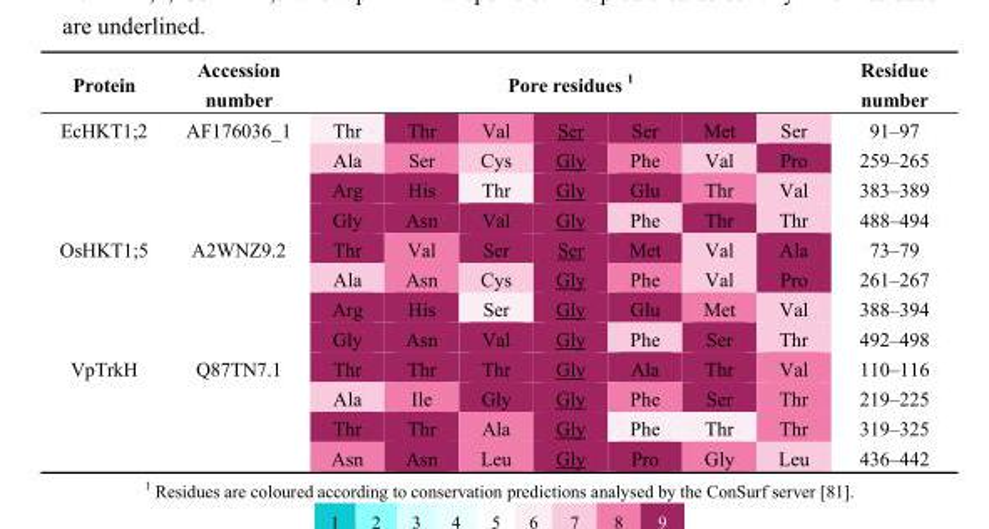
<table><thead><tr><td rowspan="2">Protein EcHKT1;2</td><td rowspan="2">Accession number AF176036_1</td><td colspan="7">Pore residues 1</td><td rowspan="2">Residue number 91–97</td></tr><tr><td>Thr</td><td>Thr</td><td>Val</td><td>Ser</td><td>Ser</td><td>Met</td><td>Ser</td></tr></thead><tbody><tr><td></td><td></td><td>Ala</td><td>Ser</td><td>Cys</td><td>Gly</td><td>Phe</td><td>Val</td><td>Pro</td><td>259–265</td></tr><tr><td></td><td></td><td>Arg</td><td>His</td><td>Thr</td><td>Gly</td><td>Glu</td><td>Thr</td><td>Val</td><td>383–389</td></tr><tr><td></td><td></td><td>Gly</td><td>Asn</td><td>Val</td><td>Gly</td><td>Phe</td><td>Thr</td><td>Thr</td><td>488–494</td></tr><tr><td rowspan="4">OsHKT1;5</td><td>A2WNZ9.2</td><td>Thr</td><td>Val</td><td>Ser</td><td>Ser</td><td>Met</td><td>Val</td><td>Ala</td><td>73–79</td></tr><tr><td></td><td>Ala</td><td>Asn</td><td>Cys</td><td>Gly</td><td>Phe</td><td>Val</td><td>Pro</td><td>261–267</td></tr><tr><td></td><td>Arg</td><td>His</td><td>Ser</td><td>Gly</td><td>Glu</td><td>Met</td><td>Val</td><td>388–394</td></tr><tr><td></td><td>Gly</td><td>Asn</td><td>Val</td><td>Gly</td><td>Phe</td><td>Ser</td><td>Thr</td><td>492–498</td></tr><tr><td rowspan="4">VpTrkH</td><td>Q87TN7.1</td><td>Thr</td><td>Thr</td><td>Thr</td><td>Gly</td><td>Ala</td><td>Thr</td><td>Val</td><td>110–116</td></tr><tr><td></td><td>Ala</td><td>Ile</td><td>Gly</td><td>Gly</td><td>Phe</td><td>Ser</td><td>Thr</td><td>219–225</td></tr><tr><td></td><td>Thr</td><td>Thr</td><td>Ala</td><td>Gly</td><td>Phe</td><td>Thr</td><td>Thr</td><td>319–325</td></tr><tr><td></td><td>Asn</td><td>Asn</td><td>Leu</td><td>Gly</td><td>Pro</td><td>Gly</td><td>Leu</td><td>436–442</td></tr></tbody></table>